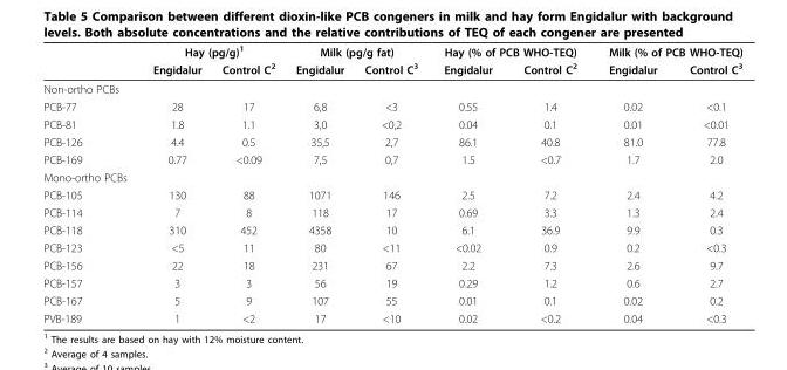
<table><thead><tr><td rowspan="2"></td><td colspan="2">Hay (pg/g)<sup>1</sup></td><td colspan="2">Milk (pg/g fat)</td><td colspan="2">Hay (% of PCB WHO-TEQ)</td><td colspan="2">Milk (% of PCB WHO-TEQ)</td></tr><tr><td>Engidalur</td><td>Control C<sup>2</sup></td><td>Engidalur</td><td>Control C<sup>3</sup></td><td>Engidalur</td><td>Control C<sup>2</sup></td><td>Engidalur</td><td>Control C<sup>3</sup></td></tr></thead><tbody><tr><td colspan="9">Non-ortho PCBs</td></tr><tr><td>PCB-77</td><td>28</td><td>17</td><td>6,8</td><td>&lt;3</td><td>0.55</td><td>1.4</td><td>0.02</td><td>&lt;0.1</td></tr><tr><td>PCB-81</td><td>1.8</td><td>1.1</td><td>3,0</td><td>&lt;0,2</td><td>0.04</td><td>0.1</td><td>0.01</td><td>&lt;0.01</td></tr><tr><td>PCB-126</td><td>4.4</td><td>0.5</td><td>35,5</td><td>2,7</td><td>86.1</td><td>40.8</td><td>81.0</td><td>77.8</td></tr><tr><td>PCB-169</td><td>0.77</td><td>&lt;0.09</td><td>7,5</td><td>0,7</td><td>1.5</td><td>&lt;0.7</td><td>1.7</td><td>2.0</td></tr><tr><td colspan="9">Mono-ortho PCBs</td></tr><tr><td>PCB-105</td><td>130</td><td>88</td><td>1071</td><td>146</td><td>2.5</td><td>7.2</td><td>2.4</td><td>4.2</td></tr><tr><td>PCB-114</td><td>7</td><td>8</td><td>118</td><td>17</td><td>0.69</td><td>3.3</td><td>1.3</td><td>2.4</td></tr><tr><td>PCB-118</td><td>310</td><td>452</td><td>4358</td><td>10</td><td>6.1</td><td>36.9</td><td>9.9</td><td>0.3</td></tr><tr><td>PCB-123</td><td>&lt;5</td><td>11</td><td>80</td><td>&lt;11</td><td>&lt;0.02</td><td>0.9</td><td>0.2</td><td>&lt;0.3</td></tr><tr><td>PCB-156</td><td>22</td><td>18</td><td>231</td><td>67</td><td>2.2</td><td>7.3</td><td>2.6</td><td>9.7</td></tr><tr><td>PCB-157</td><td>3</td><td>3</td><td>56</td><td>19</td><td>0.29</td><td>1.2</td><td>0.6</td><td>2.7</td></tr><tr><td>PCB-167</td><td>5</td><td>9</td><td>107</td><td>55</td><td>0.01</td><td>0.1</td><td>0.02</td><td>0.2</td></tr><tr><td>PVB-189</td><td>1</td><td>&lt;2</td><td>17</td><td>&lt;10</td><td>0.02</td><td>&lt;0.2</td><td>0.04</td><td>&lt;0.3</td></tr></tbody></table>